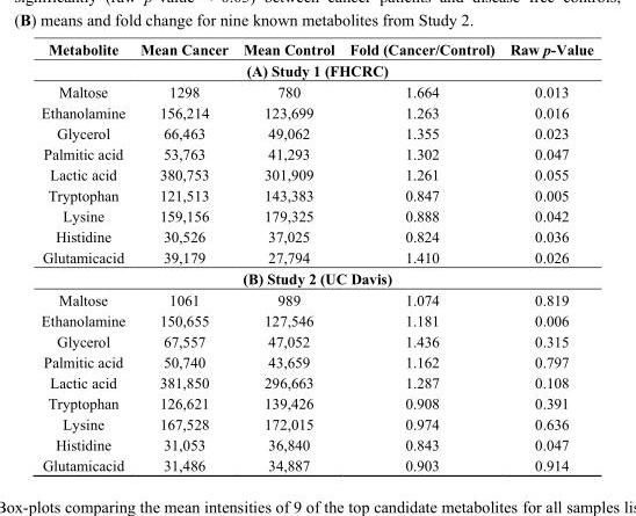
<table><thead><tr><td>Metabolite</td><td>Mean Cancer</td><td>Mean Control</td><td>Fold (Cancer/Control)</td><td>Raw p-Value</td></tr></thead><tbody><tr><td colspan="5">(A) Study 1 (FHCRC)</td></tr><tr><td>Maltose</td><td>1298</td><td>780</td><td>1.664</td><td>0.013</td></tr><tr><td>Ethanolamine</td><td>156,214</td><td>123,699</td><td>1.263</td><td>0.016</td></tr><tr><td>Glycerol</td><td>66,463</td><td>49,062</td><td>1.355</td><td>0.023</td></tr><tr><td>Palmitic acid</td><td>53,763</td><td>41,293</td><td>1.302</td><td>0.047</td></tr><tr><td>Lactic acid</td><td>380,753</td><td>301,909</td><td>1.261</td><td>0.055</td></tr><tr><td>Tryptophan</td><td>121,513</td><td>143,383</td><td>0.847</td><td>0.005</td></tr><tr><td>Lysine</td><td>159,156</td><td>179,325</td><td>0.888</td><td>0.042</td></tr><tr><td>Histidine</td><td>30,526</td><td>37,025</td><td>0.824</td><td>0.036</td></tr><tr><td>Glutamicacid</td><td>39,179</td><td>27,794</td><td>1.410</td><td>0.026</td></tr><tr><td colspan="5">(B) Study 2 (UC Davis)</td></tr><tr><td>Maltose</td><td>1061</td><td>989</td><td>1.074</td><td>0.819</td></tr><tr><td>Ethanolamine</td><td>150,655</td><td>127,546</td><td>1.181</td><td>0.006</td></tr><tr><td>Glycerol</td><td>67,557</td><td>47,052</td><td>1.436</td><td>0.315</td></tr><tr><td>Palmitic acid</td><td>50,740</td><td>43,659</td><td>1.162</td><td>0.797</td></tr><tr><td>Lactic acid</td><td>381,850</td><td>296,663</td><td>1.287</td><td>0.108</td></tr><tr><td>Tryptophan</td><td>126,621</td><td>139,426</td><td>0.908</td><td>0.391</td></tr><tr><td>Lysine</td><td>167,528</td><td>172,015</td><td>0.974</td><td>0.636</td></tr><tr><td>Histidine</td><td>31,053</td><td>36,840</td><td>0.843</td><td>0.047</td></tr><tr><td>Glutamicacid</td><td>31,486</td><td>34,887</td><td>0.903</td><td>0.914</td></tr></tbody></table>